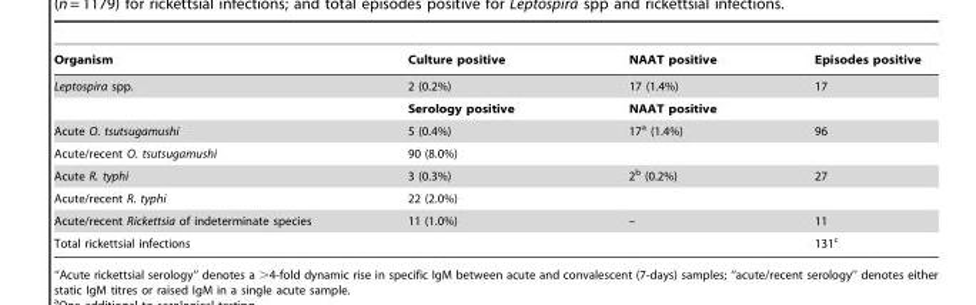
<table><thead><tr><td>Organism</td><td>Culture positive</td><td>NAAT positive</td><td>Episodes positive</td></tr></thead><tbody><tr><td rowspan="2">Leptospira spp.</td><td>2 (0.2%)</td><td>17 (1.4%)</td><td>17</td></tr><tr><td>Serology positive</td><td>NAAT positive</td><td></td></tr><tr><td>Acute O. tsutsugamushi</td><td>5 (0.4%)</td><td>17<sup>a</sup> (1.4%)</td><td>96</td></tr><tr><td>Acute/recent O. tsutsugamushi</td><td>90 (8.0%)</td><td></td><td></td></tr><tr><td>Acute R. typhi</td><td>3 (0.3%)</td><td>2<sup>b</sup> (0.2%)</td><td>27</td></tr><tr><td>Acute/recent R. typhi</td><td>22 (2.0%)</td><td></td><td></td></tr><tr><td>Acute/recent Rickettsia of indeterminate species</td><td>11 (1.0%)</td><td>–</td><td>11</td></tr><tr><td>Total rickettsial infections</td><td></td><td></td><td>131<sup>c</sup></td></tr></tbody></table>